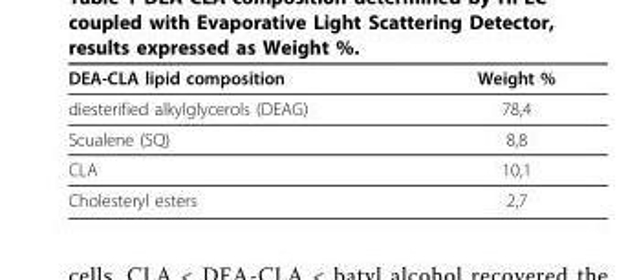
<table><thead><tr><td>DEA-CLA lipid composition</td><td>Weight %</td></tr></thead><tbody><tr><td>diesterified alkylglycerols (DEAG)</td><td>78,4</td></tr><tr><td>Scualene (SQ)</td><td>8,8</td></tr><tr><td>CLA</td><td>10,1</td></tr><tr><td>Cholesteryl esters</td><td>2,7</td></tr></tbody></table>